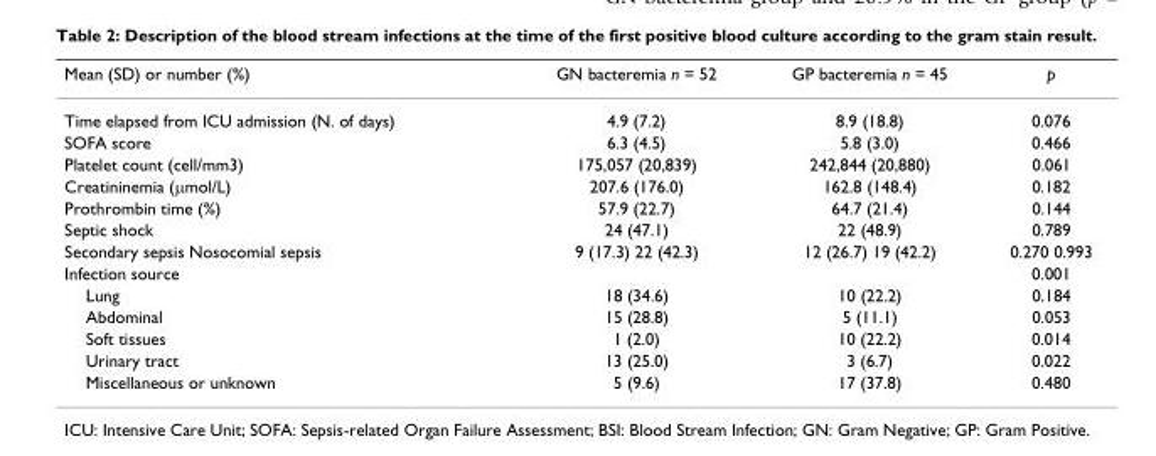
<table><thead><tr><td>Mean (SD) or number (%)</td><td>GN bacteremia n = 52</td><td>GP bacteremia n = 45</td><td>p</td></tr></thead><tbody><tr><td>Time elapsed from ICU admission (N. of days)</td><td>4.9 (7.2)</td><td>8.9 (18.8)</td><td>0.076</td></tr><tr><td>SOFA score</td><td>6.3 (4.5)</td><td>5.8 (3.0)</td><td>0.466</td></tr><tr><td>Platelet count (cell/mm3)</td><td>175,057 (20,839)</td><td>242,844 (20,880)</td><td>0.061</td></tr><tr><td>Creatininemia (µmol/L)</td><td>207.6 (176.0)</td><td>162.8 (148.4)</td><td>0.182</td></tr><tr><td>Prothrombin time (%)</td><td>57.9 (22.7)</td><td>64.7 (21.4)</td><td>0.144</td></tr><tr><td>Septic shock</td><td>24 (47.1)</td><td>22 (48.9)</td><td>0.789</td></tr><tr><td>Secondary sepsis Nosocomial sepsis</td><td>9 (17.3) 22 (42.3)</td><td>12 (26.7) 19 (42.2)</td><td>0.270 0.993</td></tr><tr><td>Infection source</td><td></td><td></td><td>0.001</td></tr><tr><td>Lung</td><td>18 (34.6)</td><td>10 (22.2)</td><td>0.184</td></tr><tr><td>Abdominal</td><td>15 (28.8)</td><td>5 (11.1)</td><td>0.053</td></tr><tr><td>Soft tissues</td><td>1 (2.0)</td><td>10 (22.2)</td><td>0.014</td></tr><tr><td>Urinary tract</td><td>13 (25.0)</td><td>3 (6.7)</td><td>0.022</td></tr><tr><td>Miscellaneous or unknown</td><td>5 (9.6)</td><td>17 (37.8)</td><td>0.480</td></tr></tbody></table>